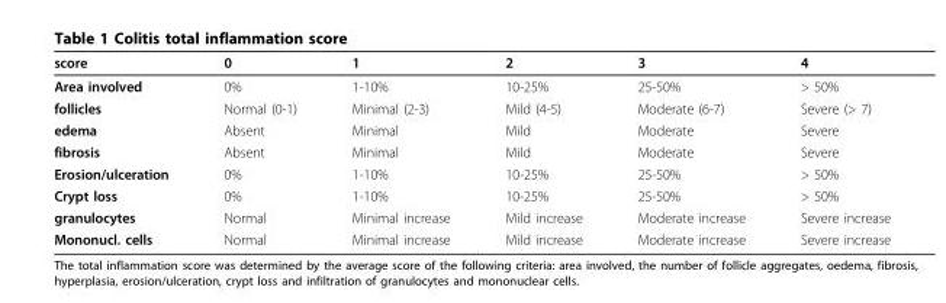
<table><thead><tr><td>score</td><td>0</td><td>1</td><td>2</td><td>3</td><td>4</td></tr></thead><tbody><tr><td>Area involved</td><td>0%</td><td>1-10%</td><td>10-25%</td><td>25-50%</td><td>&gt; 50%</td></tr><tr><td>follicles</td><td>Normal (0-1)</td><td>Minimal (2-3)</td><td>Mild (4-5)</td><td>Moderate (6-7)</td><td>Severe (&gt; 7)</td></tr><tr><td>edema</td><td>Absent</td><td>Minimal</td><td>Mild</td><td>Moderate</td><td>Severe</td></tr><tr><td>fibrosis</td><td>Absent</td><td>Minimal</td><td>Mild</td><td>Moderate</td><td>Severe</td></tr><tr><td>Erosion/ulceration</td><td>0%</td><td>1-10%</td><td>10-25%</td><td>25-50%</td><td>&gt; 50%</td></tr><tr><td>Crypt loss</td><td>0%</td><td>1-10%</td><td>10-25%</td><td>25-50%</td><td>&gt; 50%</td></tr><tr><td>granulocytes</td><td>Normal</td><td>Minimal increase</td><td>Mild increase</td><td>Moderate increase</td><td>Severe increase</td></tr><tr><td>Mononucl. cells</td><td>Normal</td><td>Minimal increase</td><td>Mild increase</td><td>Moderate increase</td><td>Severe increase</td></tr></tbody></table>